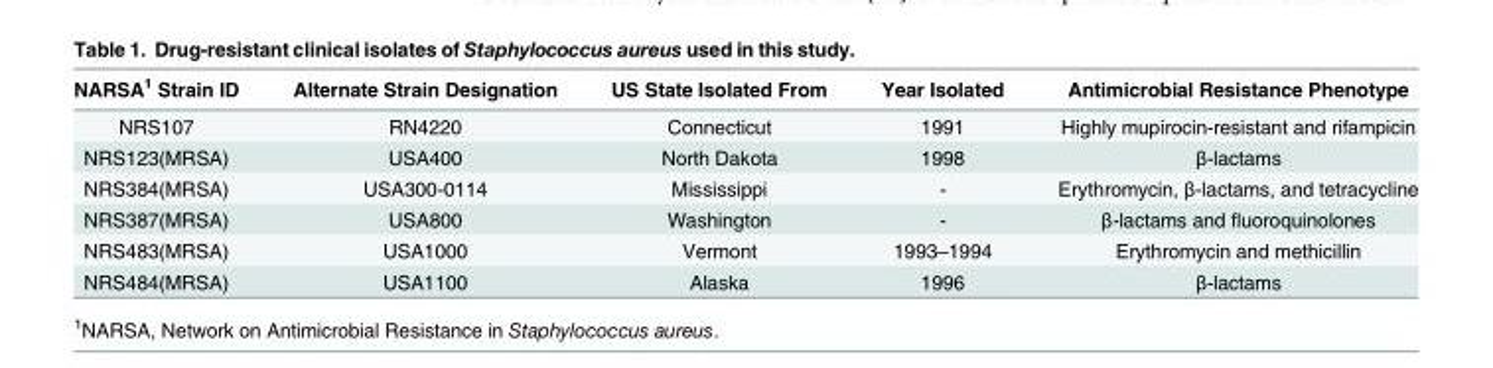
<table><thead><tr><td>NARSA<sup>1</sup> Strain ID</td><td>Alternate Strain Designation</td><td>US State Isolated From</td><td>Year Isolated</td><td>Antimicrobial Resistance Phenotype</td></tr></thead><tbody><tr><td>NRS107</td><td>RN4220</td><td>Connecticut</td><td>1991</td><td>Highly mupirocin-resistant and rifampicin</td></tr><tr><td>NRS123(MRSA)</td><td>USA400</td><td>North Dakota</td><td>1998</td><td>β-lactams</td></tr><tr><td>NRS384(MRSA)</td><td>USA300-0114</td><td>Mississippi</td><td>-</td><td>Erythromycin, β-lactams, and tetracycline</td></tr><tr><td>NRS387(MRSA)</td><td>USA800</td><td>Washington</td><td>-</td><td>β-lactams and fluoroquinolones</td></tr><tr><td>NRS483(MRSA)</td><td>USA1000</td><td>Vermont</td><td>1993–1994</td><td>Erythromycin and methicillin</td></tr><tr><td>NRS484(MRSA)</td><td>USA1100</td><td>Alaska</td><td>1996</td><td>β-lactams</td></tr></tbody></table>